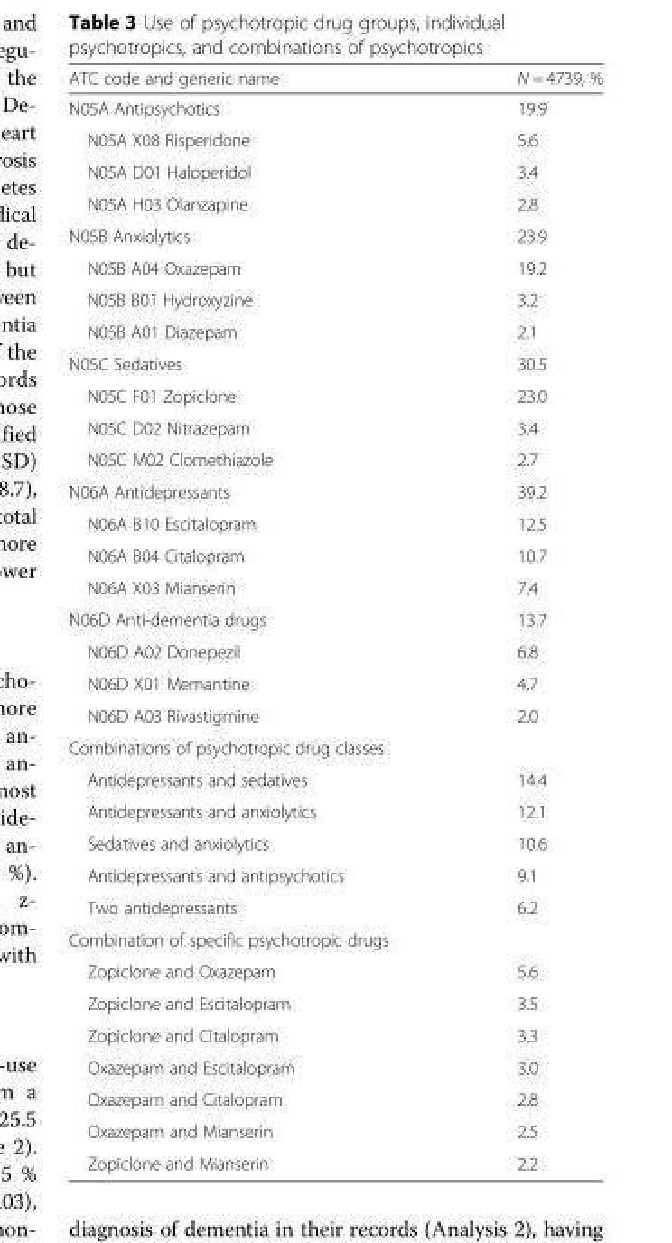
<table><thead><tr><td>ATC code and generic name</td><td>N = 4739, %</td></tr></thead><tbody><tr><td>N05A Antipsychotics</td><td>19.9</td></tr><tr><td>N05A X08 Risperidone</td><td>5.6</td></tr><tr><td>N05A D01 Haloperidol</td><td>3.4</td></tr><tr><td>N05A H03 Olanzapine</td><td>2.8</td></tr><tr><td>N05B Anxiolytics</td><td>23.9</td></tr><tr><td>N05B A04 Oxazepam</td><td>19.2</td></tr><tr><td>N05B B01 Hydroxyzine</td><td>3.2</td></tr><tr><td>N05B A01 Diazepam</td><td>2.1</td></tr><tr><td>N05C Sedatives</td><td>30.5</td></tr><tr><td>N05C F01 Zopiclone</td><td>23.0</td></tr><tr><td>N05C D02 Nitrazepam</td><td>3.4</td></tr><tr><td>N05C M02 Clomethiazole</td><td>2.7</td></tr><tr><td>N06A Antidepressants</td><td>39.2</td></tr><tr><td>N06A B10 Escitalopram</td><td>12.5</td></tr><tr><td>N06A B04 Citalopram</td><td>10.7</td></tr><tr><td>N06A X03 Mianserin</td><td>7.4</td></tr><tr><td>N06D Anti-dementia drugs</td><td>13.7</td></tr><tr><td>N06D A02 Donepezil</td><td>6.8</td></tr><tr><td>N06D X01 Memantine</td><td>4.7</td></tr><tr><td>N06D A03 Rivastigmine</td><td>2.0</td></tr><tr><td colspan="2">Combinations of psychotropic drug classes</td></tr><tr><td>Antidepressants and sedatives</td><td>14.4</td></tr><tr><td>Antidepressants and anxiolytics</td><td>12.1</td></tr><tr><td>Sedatives and anxiolytics</td><td>10.6</td></tr><tr><td>Antidepressants and antipsychotics</td><td>9.1</td></tr><tr><td>Two antidepressants</td><td>6.2</td></tr><tr><td colspan="2">Combination of specific psychotropic drugs</td></tr><tr><td>Zopiclone and Oxazepam</td><td>5.6</td></tr><tr><td>Zopiclone and Escitalopram</td><td>3.5</td></tr><tr><td>Zopiclone and Citalopram</td><td>3.3</td></tr><tr><td>Oxazepam and Escitalopram</td><td>3.0</td></tr><tr><td>Oxazepam and Citalopram</td><td>2.8</td></tr><tr><td>Oxazepam and Mianserin</td><td>2.5</td></tr><tr><td>Zopiclone and Mianserin</td><td>2.2</td></tr></tbody></table>